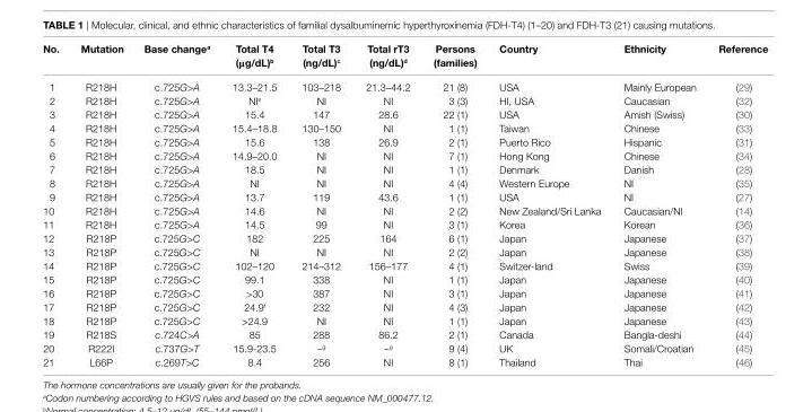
<table><thead><tr><td>No.</td><td>Mutation</td><td>Base change<sup>a</sup></td><td>Total T4 (μg/dL)<sup>b</sup></td><td>Total T3 (ng/dL)<sup>c</sup></td><td>Total rT3 (ng/dL)<sup>d</sup></td><td>Persons (families)</td><td>Country</td><td>ethnicity</td><td>Reference</td></tr></thead><tbody><tr><td>1</td><td>R218H</td><td>c.725G&gt;A</td><td>13.3–21.5</td><td>103–218</td><td>21.3–44.2</td><td>21 (8)</td><td>USA</td><td>Mainly European</td><td>(29)</td></tr><tr><td>2</td><td>R218H</td><td>c.725G&gt;A</td><td>NI<sup>e</sup></td><td>NI</td><td>NI</td><td>3 (3)</td><td>HI, USA</td><td>Caucasian</td><td>(32)</td></tr><tr><td>3</td><td>R218H</td><td>c.725G&gt;A</td><td>15.4</td><td>147</td><td>28.6</td><td>22 (1)</td><td>USA</td><td>Amish (Swiss)</td><td>(30)</td></tr><tr><td>4</td><td>R218H</td><td>c.725G&gt;A</td><td>15.4–18.8</td><td>130–150</td><td>NI</td><td>1 (1)</td><td>Taiwan</td><td>Chinese</td><td>(33)</td></tr><tr><td>5</td><td>R218H</td><td>c.725G&gt;A</td><td>15.6</td><td>138</td><td>26.9</td><td>2 (1)</td><td>Puerto Rico</td><td>Hispanic</td><td>(31)</td></tr><tr><td>6</td><td>R218H</td><td>c.725G&gt;A</td><td>14.9–20.0</td><td>NI</td><td>NI</td><td>7 (1)</td><td>Hong Kong</td><td>Chinese</td><td>(34)</td></tr><tr><td>7</td><td>R218H</td><td>c.725G&gt;A</td><td>18.5</td><td>NI</td><td>NI</td><td>1 (1)</td><td>Denmark</td><td>Danish</td><td>(28)</td></tr><tr><td>8</td><td>R218H</td><td>c.725G&gt;A</td><td>NI</td><td>NI</td><td>NI</td><td>4 (4)</td><td>Western Europe</td><td>NI</td><td>(35)</td></tr><tr><td>9</td><td>R218H</td><td>c.725G&gt;A</td><td>13.7</td><td>119</td><td>43.6</td><td>1 (1)</td><td>USA</td><td>NI</td><td>(27)</td></tr><tr><td>10</td><td>R218H</td><td>c.725G&gt;A</td><td>14.6</td><td>NI</td><td>NI</td><td>2 (2)</td><td>New Zealand/Sri Lanka</td><td>Caucasian/NI</td><td>(14)</td></tr><tr><td>11</td><td>R218H</td><td>c.725G&gt;A</td><td>14.5</td><td>99</td><td>NI</td><td>3 (1)</td><td>Korea</td><td>Korean</td><td>(36)</td></tr><tr><td>12</td><td>R218P</td><td>c.725G&gt;C</td><td>182</td><td>225</td><td>164</td><td>6 (1)</td><td>Japan</td><td>Japanese</td><td>(37)</td></tr><tr><td>13</td><td>R218P</td><td>c.725G&gt;C</td><td>NI</td><td>NI</td><td>NI</td><td>2 (2)</td><td>Japan</td><td>Japanese</td><td>(38)</td></tr><tr><td>14</td><td>R218P</td><td>c.725G&gt;C</td><td>102–120</td><td>214–312</td><td>156–177</td><td>4 (1)</td><td>Switzer-land</td><td>Swiss</td><td>(39)</td></tr><tr><td>15</td><td>R218P</td><td>c.725G&gt;C</td><td>99.1</td><td>338</td><td>NI</td><td>1 (1)</td><td>Japan</td><td>Japanese</td><td>(40)</td></tr><tr><td>16</td><td>R218P</td><td>c.725G&gt;C</td><td>&gt;30</td><td>387</td><td>NI</td><td>3 (1)</td><td>Japan</td><td>Japanese</td><td>(41)</td></tr><tr><td>17</td><td>R218P</td><td>c.725G&gt;C</td><td>24.9<sup>f</sup></td><td>232</td><td>NI</td><td>4 (3)</td><td>Japan</td><td>Japanese</td><td>(42)</td></tr><tr><td>18</td><td>R218P</td><td>c.725G&gt;C</td><td>&gt;24.9</td><td>NI</td><td>NI</td><td>1 (1)</td><td>Japan</td><td>Japanese</td><td>(43)</td></tr><tr><td>19</td><td>R218S</td><td>c.724C&gt;A</td><td>85</td><td>288</td><td>86.2</td><td>2 (1)</td><td>Canada</td><td>Bangla-deshi</td><td>(44)</td></tr><tr><td>20</td><td>R222I</td><td>c.737G&gt;T</td><td>15.9-23.5</td><td>–<sup>g</sup></td><td>–<sup>g</sup></td><td>9 (4)</td><td>UK</td><td>Somali/Croatian</td><td>(45)</td></tr><tr><td>21</td><td>L66P</td><td>c.269T&gt;C</td><td>8.4</td><td>256</td><td>NI</td><td>8 (1)</td><td>Thailand</td><td>Thai</td><td>(46)</td></tr></tbody></table>